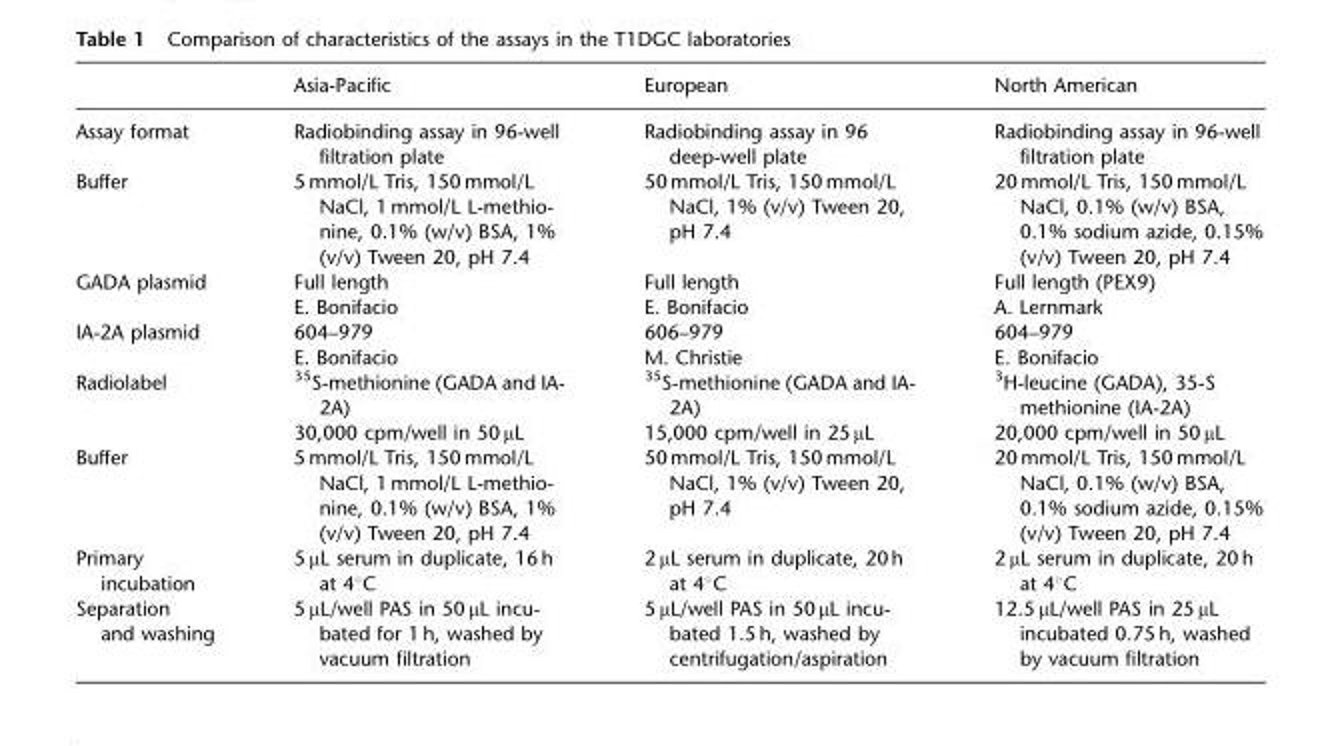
<table><thead><tr><td></td><td>Asia-Pacific</td><td>European</td><td>North American</td></tr></thead><tbody><tr><td>Assay format</td><td>Radiobinding assay in 96-well filtration plate</td><td>Radiobinding assay in 96 deep-well plate</td><td>Radiobinding assay in 96-well filtration plate</td></tr><tr><td>Buffer</td><td>5 mmol/L Tris, 150 mmol/L NaCl, 1 mmol/L L-methio- nine, 0.1% (w/v) BSA, 1% (v/v) Tween 20, pH 7.4</td><td>50 mmol/L Tris, 150 mmol/L NaCl, 1% (v/v) Tween 20, pH 7.4</td><td>20 mmol/L Tris, 150 mmol/L NaCl, 0.1% (w/v) BSA, 0.1% sodium azide, 0.15% (v/v) Tween 20, pH 7.4</td></tr><tr><td rowspan="2">GADA plasmid</td><td>Full length</td><td>Full length</td><td>Full length (PEX9)</td></tr><tr><td>E. Bonifacio</td><td>E. Bonifacio</td><td>A. Lernmark</td></tr><tr><td rowspan="2">IA-2A plasmid</td><td>604–979</td><td>606–979</td><td>604–979</td></tr><tr><td>E. Bonifacio</td><td>M. Christie</td><td>E. Bonifacio</td></tr><tr><td rowspan="2">Radiolabel</td><td><sup>35</sup>S-methionine (GADA and IA- 2A)</td><td><sup>35</sup>S-methionine (GADA and IA- 2A)</td><td><sup>3</sup>H-leucine (GADA), 35-S methionine (IA-2A)</td></tr><tr><td>30,000 cpm/well in 50 µL</td><td>15,000 cpm/well in 25 µL</td><td>20,000 cpm/well in 50 µL</td></tr><tr><td>Buffer</td><td>5 mmol/L Tris, 150 mmol/L NaCl, 1 mmol/L L-methio- nine, 0.1% (w/v) BSA, 1% (v/v) Tween 20, pH 7.4</td><td>50 mmol/L Tris, 150 mmol/L NaCl, 1% (v/v) Tween 20, pH 7.4</td><td>20 mmol/L Tris, 150 mmol/L NaCl, 0.1% (w/v) BSA, 0.1% sodium azide, 0.15% (v/v) Tween 20, pH 7.4</td></tr><tr><td>Primary incubation</td><td>5 µL serum in duplicate, 16 h at 4°C</td><td>2 µL serum in duplicate, 20 h at 4°C</td><td>2 µL serum in duplicate, 20 h at 4°C</td></tr><tr><td>Separation and washing</td><td>5 mL/well PAS in 50 mL incu- bated for 1 h, washed by vacuum filtration</td><td>5 mL/well PAS in 50 mL incu- bated 1.5 h, washed by centrifugation/aspiration</td><td>12.5 µL/well PAS in 25 µL incubated 0.75 h, washed by vacuum filtration</td></tr></tbody></table>